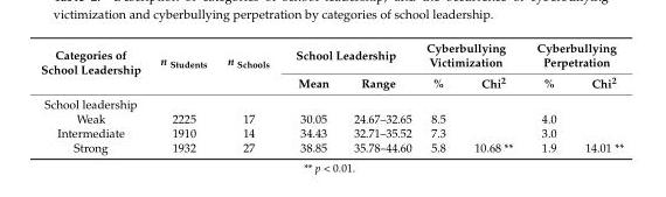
<table><thead><tr><td rowspan="2">Categories of School Leadership</td><td rowspan="2">n <sub>Students</sub></td><td rowspan="2">n <sub>Schools</sub></td><td colspan="2">School Leadership</td><td colspan="2">Cyberbullying Victimization</td><td colspan="2">Cyberbullying Perpetration</td></tr><tr><td>Mean</td><td>Range</td><td>%</td><td>Chi<sup>2</sup></td><td>%</td><td>Chi<sup>2</sup></td></tr></thead><tbody><tr><td colspan="9">School leadership</td></tr><tr><td>Weak</td><td>2225</td><td>17</td><td>30.05</td><td>24.67–32.65</td><td>8.5</td><td></td><td>4.0</td><td></td></tr><tr><td>Intermediate</td><td>1910</td><td>14</td><td>34.43</td><td>32.71–35.52</td><td>7.3</td><td></td><td>3.0</td><td></td></tr><tr><td>Strong</td><td>1932</td><td>27</td><td>38.85</td><td>35.78–44.60</td><td>5.8</td><td>10.68 **</td><td>1.9</td><td>14.01 **</td></tr></tbody></table>